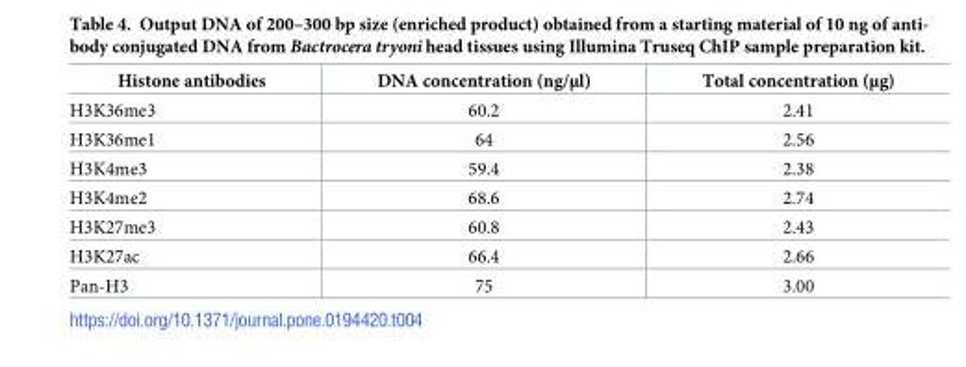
<table><thead><tr><td>Histone antibodies</td><td>DNA concentration (ng/μl)</td><td>Total concentration (μg)</td></tr></thead><tbody><tr><td>H3K36me3</td><td>60.2</td><td>2.41</td></tr><tr><td>H3K36me1</td><td>64</td><td>2.56</td></tr><tr><td>H3K4me3</td><td>59.4</td><td>2.38</td></tr><tr><td>H3K4me2</td><td>68.6</td><td>2.74</td></tr><tr><td>H3K27me3</td><td>60.8</td><td>2.43</td></tr><tr><td>H3K27ac</td><td>66.4</td><td>2.66</td></tr><tr><td>Pan-H3</td><td>75</td><td>3.00</td></tr></tbody></table>